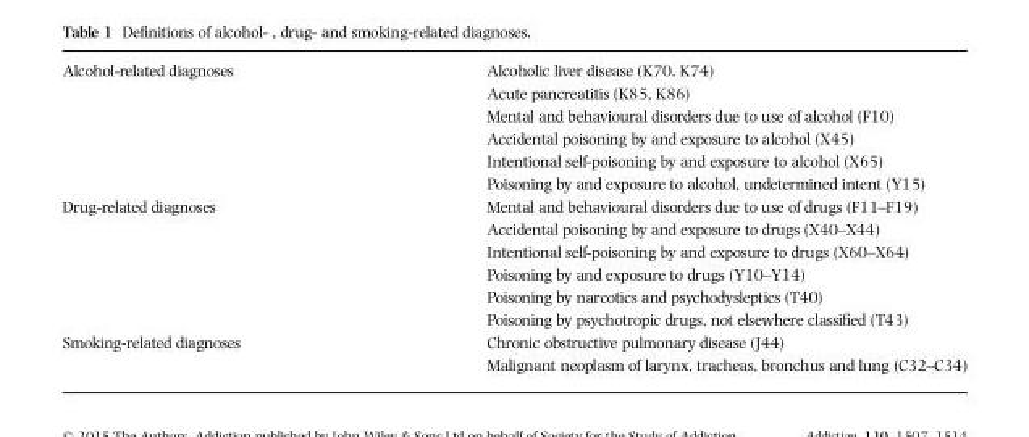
<table><tbody><tr><td rowspan="6">Alcohol-related diagnoses</td><td>Alcoholic liver disease (K70, K74)</td></tr><tr><td>Acute pancreatitis (K85, K86)</td></tr><tr><td>Mental and behavioural disorders due to use of alcohol (F10)</td></tr><tr><td>Accidental poisoning by and exposure to alcohol (X45)</td></tr><tr><td>Intentional self-poisoning by and exposure to alcohol (X65)</td></tr><tr><td>Poisoning by and exposure to alcohol, undetermined intent (Y15)</td></tr><tr><td rowspan="6">Drug-related diagnoses</td><td>Mental and behavioural disorders due to use of drugs (F11–F19)</td></tr><tr><td>Accidental poisoning by and exposure to drugs (X40–X44)</td></tr><tr><td>Intentional self-poisoning by and exposure to drugs (X60–X64)</td></tr><tr><td>Poisoning by and exposure to drugs (Y10–Y14)</td></tr><tr><td>Poisoning by narcotics and psychodysleptics (T40)</td></tr><tr><td>Poisoning by psychotropic drugs, not elsewhere classified (T43)</td></tr><tr><td rowspan="2">Smoking-related diagnoses</td><td>Chronic obstructive pulmonary disease (J44)</td></tr><tr><td>Malignant neoplasm of larynx, tracheas, bronchus and lung (C32–C34)</td></tr></tbody></table>